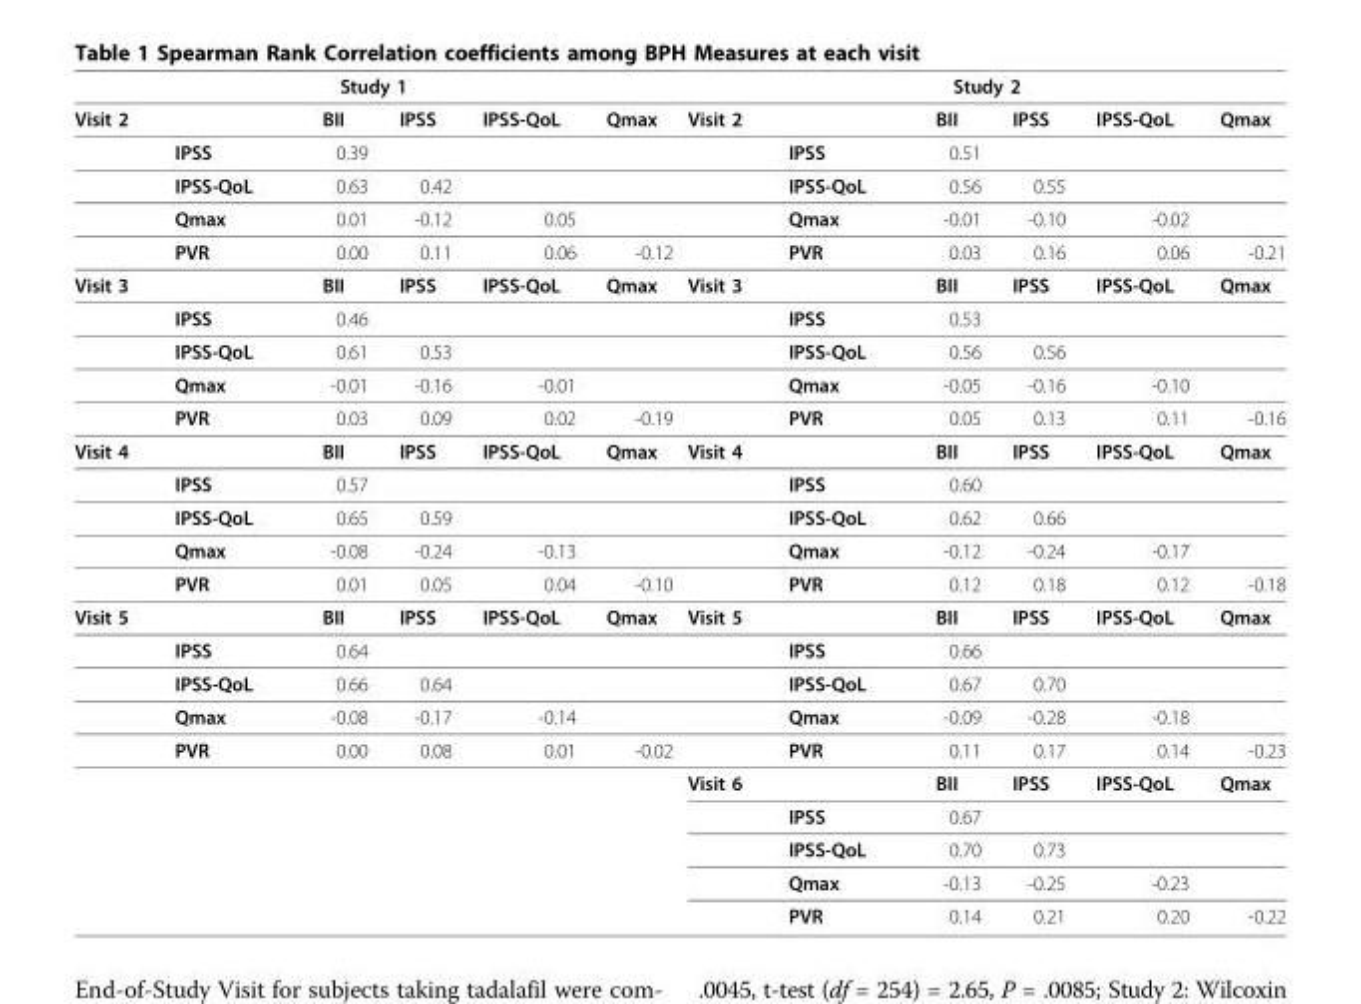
<table><thead><tr><td colspan="6">Study 1</td><td colspan="6">Study 2</td></tr><tr><td>Visit 2</td><td></td><td>BII</td><td>IPSS</td><td>IPSS-QoL</td><td>Qmax</td><td>Visit 2</td><td></td><td>BII</td><td>IPSS</td><td>IPSS-QoL</td><td>Qmax</td></tr></thead><tbody><tr><td></td><td>IPSS</td><td>0.39</td><td></td><td></td><td></td><td></td><td>IPSS</td><td>0.51</td><td></td><td></td><td></td></tr><tr><td></td><td>IPSS-QoL</td><td>0.63</td><td>0.42</td><td></td><td></td><td></td><td>IPSS-QoL</td><td>0.56</td><td>0.55</td><td></td><td></td></tr><tr><td></td><td>Qmax</td><td>0.01</td><td>-0.12</td><td>0.05</td><td></td><td></td><td>Qmax</td><td>-0.01</td><td>-0.10</td><td>-0.02</td><td></td></tr><tr><td></td><td>PVR</td><td>0.00</td><td>0.11</td><td>0.06</td><td>-0.12</td><td></td><td>PVR</td><td>0.03</td><td>0.16</td><td>0.06</td><td>-0.21</td></tr><tr><td rowspan="5">Visit 3</td><td></td><td>BII</td><td>IPSS</td><td>IPSS-QoL</td><td>Qmax</td><td>Visit 3</td><td></td><td>BII</td><td>IPSS</td><td>IPSS-QoL</td><td>Qmax</td></tr><tr><td>IPSS</td><td>0.46</td><td></td><td></td><td></td><td></td><td>IPSS</td><td>0.53</td><td></td><td></td><td></td></tr><tr><td>IPSS-QoL</td><td>0.61</td><td>0.53</td><td></td><td></td><td></td><td>IPSS-QoL</td><td>0.56</td><td>0.56</td><td></td><td></td></tr><tr><td>Qmax</td><td>-0.01</td><td>-0.16</td><td>-0.01</td><td></td><td></td><td>Qmax</td><td>-0.05</td><td>-0.16</td><td>-0.10</td><td></td></tr><tr><td>PVR</td><td>0.03</td><td>0.09</td><td>0.02</td><td>-0.19</td><td></td><td>PVR</td><td>0.05</td><td>0.13</td><td>0.11</td><td>-0.16</td></tr><tr><td rowspan="5">Visit 4</td><td></td><td>BII</td><td>IPSS</td><td>IPSS-QoL</td><td>Qmax</td><td>Visit 4</td><td></td><td>BII</td><td>IPSS</td><td>IPSS-QoL</td><td>Qmax</td></tr><tr><td>IPSS</td><td>0.57</td><td></td><td></td><td></td><td></td><td>IPSS</td><td>0.60</td><td></td><td></td><td></td></tr><tr><td>IPSS-QoL</td><td>0.65</td><td>0.59</td><td></td><td></td><td></td><td>IPSS-QoL</td><td>0.62</td><td>0.66</td><td></td><td></td></tr><tr><td>Qmax</td><td>-0.08</td><td>-0.24</td><td>-0.13</td><td></td><td></td><td>Qmax</td><td>-0.12</td><td>-0.24</td><td>-0.17</td><td></td></tr><tr><td>PVR</td><td>0.01</td><td>0.05</td><td>0.04</td><td>-0.10</td><td></td><td>PVR</td><td>0.12</td><td>0.18</td><td>0.12</td><td>-0.18</td></tr><tr><td rowspan="10">Visit 5</td><td></td><td>BII</td><td>IPSS</td><td>IPSS-QoL</td><td>Qmax</td><td>Visit 5</td><td></td><td>BII</td><td>IPSS</td><td>IPSS-QoL</td><td>Qmax</td></tr><tr><td>IPSS</td><td>0.64</td><td></td><td></td><td></td><td></td><td>IPSS</td><td>0.66</td><td></td><td></td><td></td></tr><tr><td>IPSS-QoL</td><td>0.66</td><td>0.64</td><td></td><td></td><td></td><td>IPSS-QoL</td><td>0.67</td><td>0.70</td><td></td><td></td></tr><tr><td>Qmax</td><td>-0.08</td><td>-0.17</td><td>-0.14</td><td></td><td></td><td>Qmax</td><td>-0.09</td><td>-0.28</td><td>-0.18</td><td></td></tr><tr><td>PVR</td><td>0.00</td><td>0.08</td><td>0.01</td><td>-0.02</td><td></td><td>PVR</td><td>0.11</td><td>0.17</td><td>0.14</td><td>-0.23</td></tr><tr><td></td><td></td><td></td><td></td><td></td><td>Visit 6</td><td></td><td>BII</td><td>IPSS</td><td>IPSS-QoL</td><td>Qmax</td></tr><tr><td></td><td></td><td></td><td></td><td></td><td></td><td>IPSS</td><td>0.67</td><td></td><td></td><td></td></tr><tr><td></td><td></td><td></td><td></td><td></td><td></td><td>IPSS-QoL</td><td>0.70</td><td>0.73</td><td></td><td></td></tr><tr><td></td><td></td><td></td><td></td><td></td><td></td><td>Qmax</td><td>-0.13</td><td>-0.25</td><td>-0.23</td><td></td></tr><tr><td></td><td></td><td></td><td></td><td></td><td></td><td>PVR</td><td>0.14</td><td>0.21</td><td>0.20</td><td>-0.22</td></tr></tbody></table>